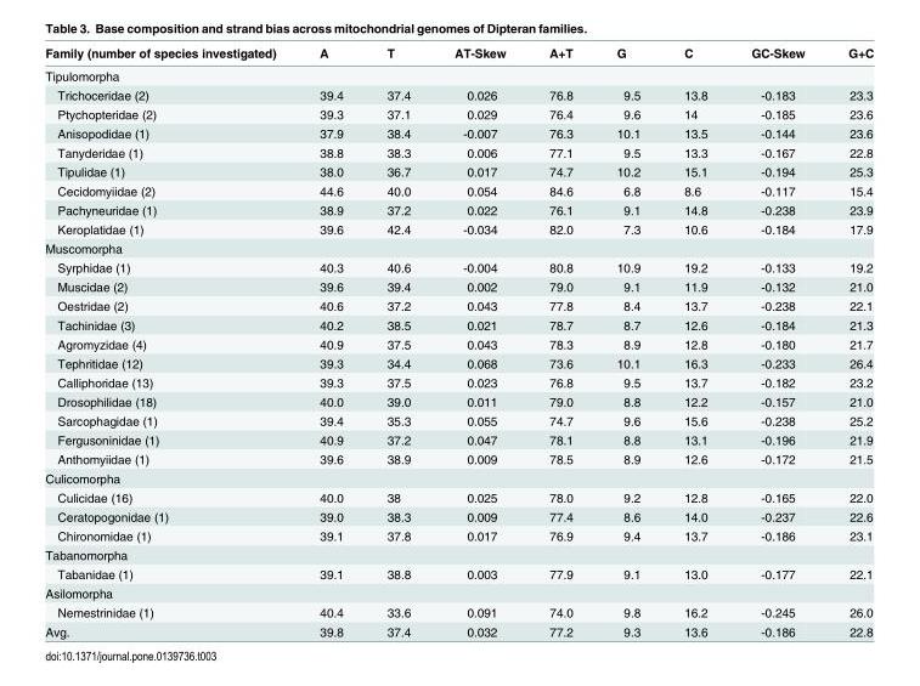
<table><thead><tr><td>Family (number of species investigated)</td><td>A</td><td>T</td><td>AT-Skew</td><td>A+T</td><td>G</td><td>C</td><td>GC-Skew</td><td>G+C</td></tr></thead><tbody><tr><td colspan="9">Tipulomorpha</td></tr><tr><td>Trichoceridae (2)</td><td>39.4</td><td>37.4</td><td>0.026</td><td>76.8</td><td>9.5</td><td>13.8</td><td>-0.183</td><td>23.3</td></tr><tr><td>Ptychopteridae (2)</td><td>39.3</td><td>37.1</td><td>0.029</td><td>76.4</td><td>9.6</td><td>14</td><td>-0.185</td><td>23.6</td></tr><tr><td>Anisopodidae (1)</td><td>37.9</td><td>38.4</td><td>-0.007</td><td>76.3</td><td>10.1</td><td>13.5</td><td>-0.144</td><td>23.6</td></tr><tr><td>Tanyderidae (1)</td><td>38.8</td><td>38.3</td><td>0.006</td><td>77.1</td><td>9.5</td><td>13.3</td><td>-0.167</td><td>22.8</td></tr><tr><td>Tipulidae (1)</td><td>38.0</td><td>36.7</td><td>0.017</td><td>74.7</td><td>10.2</td><td>15.1</td><td>-0.194</td><td>25.3</td></tr><tr><td>Cecidomyiidae (2)</td><td>44.6</td><td>40.0</td><td>0.054</td><td>84.6</td><td>6.8</td><td>8.6</td><td>-0.117</td><td>15.4</td></tr><tr><td>Pachyneuridae (1)</td><td>38.9</td><td>37.2</td><td>0.022</td><td>76.1</td><td>9.1</td><td>14.8</td><td>-0.238</td><td>23.9</td></tr><tr><td>Keroplatidae (1)</td><td>39.6</td><td>42.4</td><td>-0.034</td><td>82.0</td><td>7.3</td><td>10.6</td><td>-0.184</td><td>17.9</td></tr><tr><td colspan="9">Muscomorpha</td></tr><tr><td>Syrphidae (1)</td><td>40.3</td><td>40.6</td><td>-0.004</td><td>80.8</td><td>10.9</td><td>19.2</td><td>-0.133</td><td>19.2</td></tr><tr><td>Muscidae (2)</td><td>39.6</td><td>39.4</td><td>0.002</td><td>79.0</td><td>9.1</td><td>11.9</td><td>-0.132</td><td>21.0</td></tr><tr><td>Oestridae (2)</td><td>40.6</td><td>37.2</td><td>0.043</td><td>77.8</td><td>8.4</td><td>13.7</td><td>-0.238</td><td>22.1</td></tr><tr><td>Tachinidae (3)</td><td>40.2</td><td>38.5</td><td>0.021</td><td>78.7</td><td>8.7</td><td>12.6</td><td>-0.184</td><td>21.3</td></tr><tr><td>Agromyzidae (4)</td><td>40.9</td><td>37.5</td><td>0.043</td><td>78.3</td><td>8.9</td><td>12.8</td><td>-0.180</td><td>21.7</td></tr><tr><td>Tephritidae (12)</td><td>39.3</td><td>34.4</td><td>0.068</td><td>73.6</td><td>10.1</td><td>16.3</td><td>-0.233</td><td>26.4</td></tr><tr><td>Calliphoridae (13)</td><td>39.3</td><td>37.5</td><td>0.023</td><td>76.8</td><td>9.5</td><td>13.7</td><td>-0.182</td><td>23.2</td></tr><tr><td>Drosophilidae (18)</td><td>40.0</td><td>39.0</td><td>0.011</td><td>79.0</td><td>8.8</td><td>12.2</td><td>-0.157</td><td>21.0</td></tr><tr><td>Sarcophagidae (1)</td><td>39.4</td><td>35.3</td><td>0.055</td><td>74.7</td><td>9.6</td><td>15.6</td><td>-0.238</td><td>25.2</td></tr><tr><td>Fergusoninidae (1)</td><td>40.9</td><td>37.2</td><td>0.047</td><td>78.1</td><td>8.8</td><td>13.1</td><td>-0.196</td><td>21.9</td></tr><tr><td>Anthomyiidae (1)</td><td>39.6</td><td>38.9</td><td>0.009</td><td>78.5</td><td>8.9</td><td>12.6</td><td>-0.172</td><td>21.5</td></tr><tr><td colspan="9">Culicomorpha</td></tr><tr><td>Culicidae (16)</td><td>40.0</td><td>38</td><td>0.025</td><td>78.0</td><td>9.2</td><td>12.8</td><td>-0.165</td><td>22.0</td></tr><tr><td>Ceratopogonidae (1)</td><td>39.0</td><td>38.3</td><td>0.009</td><td>77.4</td><td>8.6</td><td>14.0</td><td>-0.237</td><td>22.6</td></tr><tr><td>Chironomidae (1)</td><td>39.1</td><td>37.8</td><td>0.017</td><td>76.9</td><td>9.4</td><td>13.7</td><td>-0.186</td><td>23.1</td></tr><tr><td colspan="9">Tabanomorpha</td></tr><tr><td>Tabanidae (1)</td><td>39.1</td><td>38.8</td><td>0.003</td><td>77.9</td><td>9.1</td><td>13.0</td><td>-0.177</td><td>22.1</td></tr><tr><td colspan="9">Asilomorpha</td></tr><tr><td>Nemestrinidae (1)</td><td>40.4</td><td>33.6</td><td>0.091</td><td>74.0</td><td>9.8</td><td>16.2</td><td>-0.245</td><td>26.0</td></tr><tr><td>Avg.</td><td>39.8</td><td>37.4</td><td>0.032</td><td>77.2</td><td>9.3</td><td>13.6</td><td>-0.186</td><td>22.8</td></tr></tbody></table>